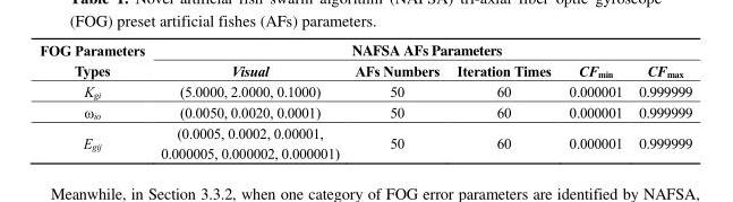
<table><thead><tr><td rowspan="2">FOG Parameters Types</td><td colspan="5">NAFSA AFs Parameters</td></tr><tr><td>Visual</td><td>AFs Numbers</td><td>Iteration Times</td><td>CF<sub>min</sub></td><td>CF<sub>max</sub></td></tr></thead><tbody><tr><td>K<sub>gi</sub></td><td>(5.0000, 2.0000, 0.1000)</td><td>50</td><td>60</td><td>0.000001</td><td>0.999999</td></tr><tr><td>ω<sub>io</sub></td><td>(0.0050, 0.0020, 0.0001)</td><td>50</td><td>60</td><td>0.000001</td><td>0.999999</td></tr><tr><td>E<sub>gij</sub></td><td>(0.0005, 0.0002, 0.00001, 0.000005, 0.000002, 0.000001)</td><td>50</td><td>60</td><td>0.000001</td><td>0.999999</td></tr></tbody></table>